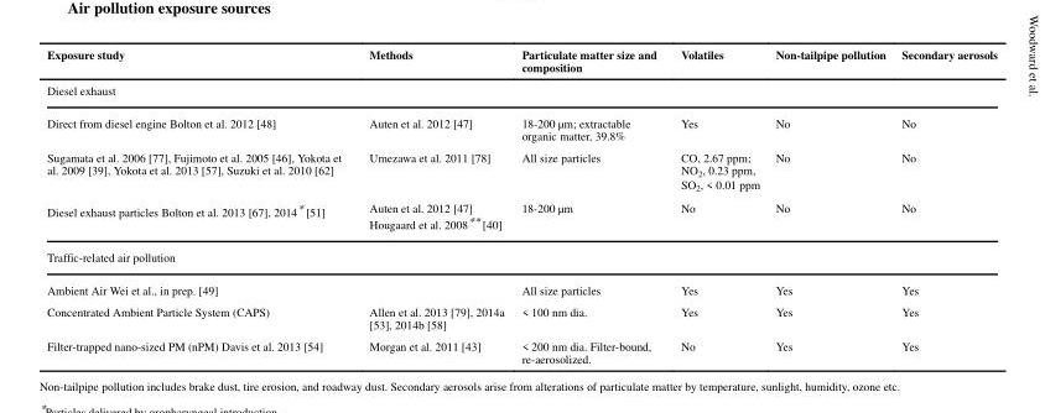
<table><thead><tr><td>Exposure study</td><td>Methods</td><td>Particulate matter size and composition</td><td>Volatiles</td><td>Non-tailpipe pollution</td><td>Secondary aerosols</td></tr></thead><tbody><tr><td colspan="6">Diesel exhaust</td></tr><tr><td>Direct from diesel engine Bolton et al. 2012 [48]</td><td>Auten et al. 2012 [47]</td><td>18-200 μm; extractable organic matter, 39.8%</td><td>Yes</td><td>No</td><td>No</td></tr><tr><td>Sugamata et al. 2006 [77], Fujimoto et al. 2005 [46], Yokota et al. 2009 [39], Yokota et al. 2013 [57], Suzuki et al. 2010 [62]</td><td>Umezawa et al. 2011 [78]</td><td>All size particles</td><td>CO, 2.67 ppm; NO<sub>2</sub>, 0.23 ppm, SO<sub>2</sub>, &lt; 0.01 ppm</td><td>No</td><td>No</td></tr><tr><td>Diesel exhaust particles Bolton et al. 2013 [67], 2014* [51]</td><td>Auten et al. 2012 [47] Hougaard et al. 2008** [40]</td><td>18-200 μm</td><td>No</td><td>No</td><td>No</td></tr><tr><td colspan="6">Traffic-related air pollution</td></tr><tr><td>Ambient Air Wei et al., in prep. [49]</td><td></td><td>All size particles</td><td>Yes</td><td>Yes</td><td>Yes</td></tr><tr><td>Concentrated Ambient Particle System (CAPS)</td><td>Allen et al. 2013 [79], 2014a [53], 2014b [58]</td><td>&lt; 100 nm dia.</td><td>Yes</td><td>Yes</td><td>Yes</td></tr><tr><td>Filter-trapped nano-sized PM (nPM) Davis et al. 2013 [54]</td><td>Morgan et al. 2011 [43]</td><td>&lt; 200 nm dia. Filter-bound, re-aerosolized.</td><td>No</td><td>Yes</td><td>Yes</td></tr></tbody></table>